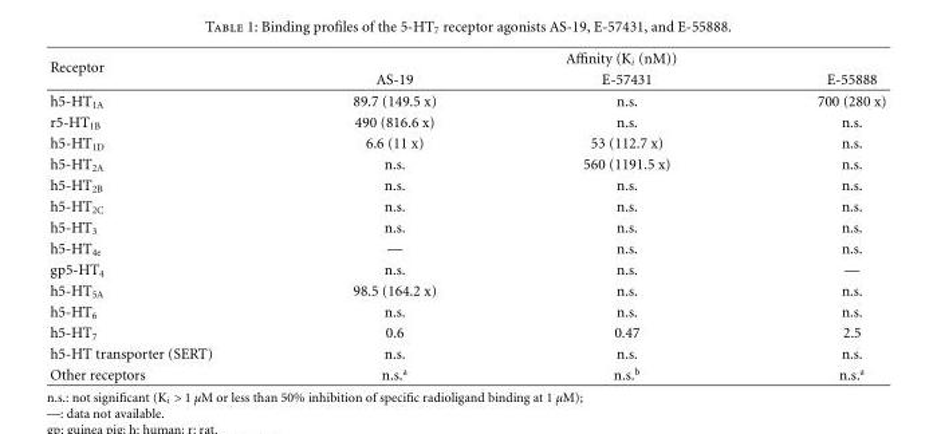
<table><thead><tr><td rowspan="2">Receptor</td><td colspan="3">Affinity (K<sub>i</sub> (nM))</td></tr><tr><td>AS-19</td><td>E-57431</td><td>E-55888</td></tr></thead><tbody><tr><td>h5-HT<sub>1A</sub></td><td>89.7 (149.5 x)</td><td>n.s.</td><td>700 (280 x)</td></tr><tr><td>r5-HT<sub>1B</sub></td><td>490 (816.6 x)</td><td>n.s.</td><td>n.s.</td></tr><tr><td>h5-HT<sub>1D</sub></td><td>6.6 (11 x)</td><td>53 (112.7 x)</td><td>n.s.</td></tr><tr><td>h5-HT<sub>2A</sub></td><td>n.s.</td><td>560 (1191.5 x)</td><td>n.s.</td></tr><tr><td>h5-HT<sub>2B</sub></td><td>n.s.</td><td>n.s.</td><td>n.s.</td></tr><tr><td>h5-HT<sub>2C</sub></td><td>n.s.</td><td>n.s.</td><td>n.s.</td></tr><tr><td>h5-HT<sub>3</sub></td><td>n.s.</td><td>n.s.</td><td>n.s.</td></tr><tr><td>h5-HT<sub>4e</sub></td><td>—</td><td>n.s.</td><td>n.s.</td></tr><tr><td>gp5-HT<sub>4</sub></td><td>n.s.</td><td>n.s.</td><td>—</td></tr><tr><td>h5-HT<sub>5A</sub></td><td>98.5 (164.2 x)</td><td>n.s.</td><td>n.s.</td></tr><tr><td>h5-HT<sub>6</sub></td><td>n.s.</td><td>n.s.</td><td>n.s.</td></tr><tr><td>h5-HT<sub>7</sub></td><td>0.6</td><td>0.47</td><td>2.5</td></tr><tr><td>h5-HT transporter (SERT)</td><td>n.s.</td><td>n.s.</td><td>n.s.</td></tr><tr><td>Other receptors</td><td>n.s.<sup>a</sup></td><td>n.s.<sup>b</sup></td><td>n.s.<sup>a</sup></td></tr></tbody></table>